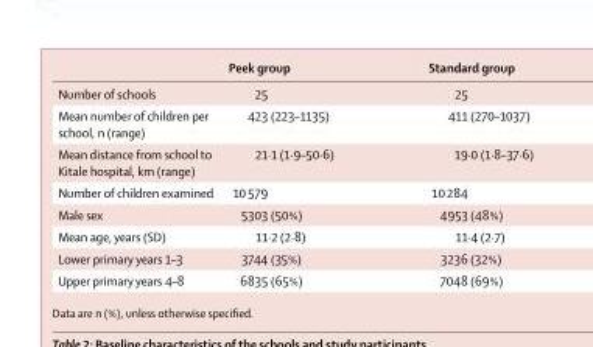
<table><thead><tr><td></td><td>Peek group</td><td>Standard group</td></tr></thead><tbody><tr><td>Number of schools</td><td>25</td><td>25</td></tr><tr><td>Mean number of children per school, n (range)</td><td>423 (223–1135)</td><td>411 (270–1037)</td></tr><tr><td>Mean distance from school to Kitale hospital, km (range)</td><td>21·1 (1·9–50·6)</td><td>19·0 (1·8–37·6)</td></tr><tr><td>Number of children examined</td><td>10 579</td><td>10 284</td></tr><tr><td>Male sex</td><td>5303 (50%)</td><td>4953 (48%)</td></tr><tr><td>Mean age, years (SD)</td><td>11·2 (2·8)</td><td>11·4 (2·7)</td></tr><tr><td>Lower primary years 1–3</td><td>3744 (35%)</td><td>3236 (32%)</td></tr><tr><td>Upper primary years 4–8</td><td>6835 (65%)</td><td>7048 (69%)</td></tr></tbody></table>